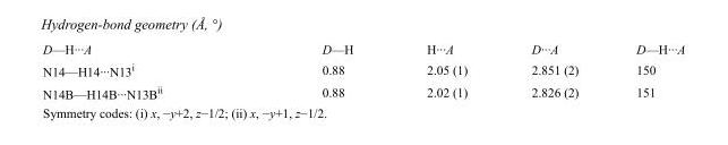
<table><tbody><tr><td>D—H···A</td><td>D—H</td><td>H···A</td><td>D···A</td><td>D—H···A</td></tr><tr><td>N14—H14···N13<sup>i</sup></td><td>0.88</td><td>2.05 (1)</td><td>2.851 (2)</td><td>150</td></tr><tr><td>N14B—H14B···N13B<sup>ii</sup></td><td>0.88</td><td>2.02 (1)</td><td>2.826 (2)</td><td>151</td></tr></tbody></table>